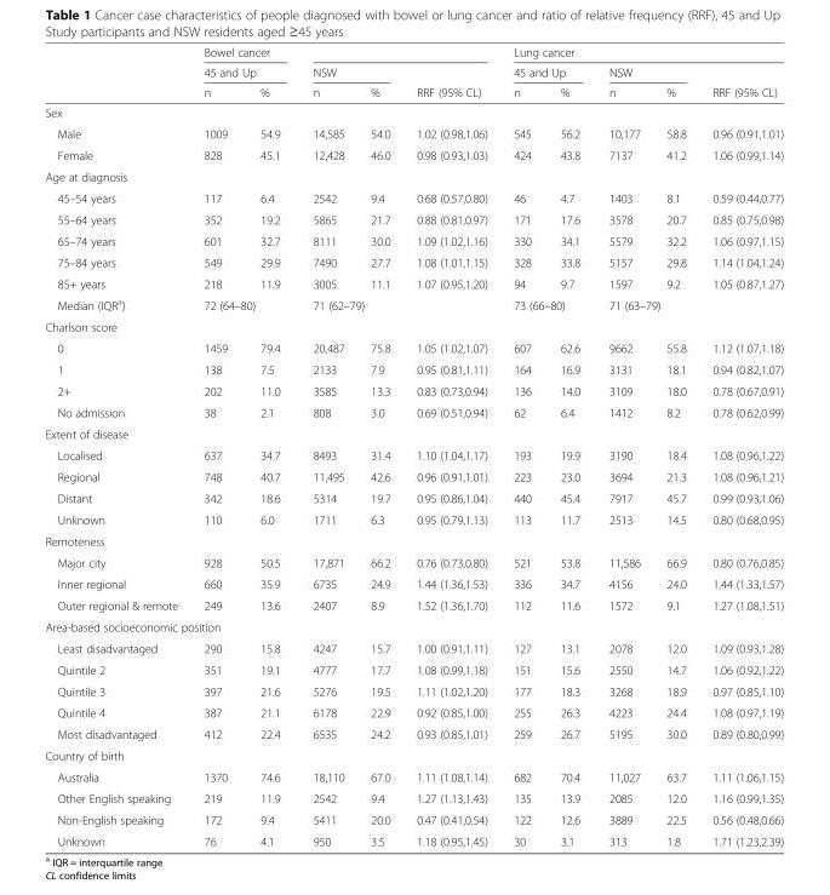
<table><thead><tr><td rowspan="3"></td><td rowspan="2" colspan="2">Bowel cancer 45 and Up</td><td></td><td></td><td rowspan="3">RRF (95% CL)</td><td colspan="5">Lung cancer</td></tr><tr><td colspan="2">NSW</td><td colspan="2">45 and Up</td><td colspan="2">NSW</td><td rowspan="2">RRF (95% CL)</td></tr><tr><td>n</td><td>%</td><td>n</td><td>%</td><td>n</td><td>%</td><td>n</td><td>%</td></tr></thead><tbody><tr><td colspan="11">Sex</td></tr><tr><td>Male</td><td>1009</td><td>54.9</td><td>14,585</td><td>54.0</td><td>1.02 (0.98,1.06)</td><td>545</td><td>56.2</td><td>10,177</td><td>58.8</td><td>0.96 (0.91,1.01)</td></tr><tr><td>Female</td><td>828</td><td>45.1</td><td>12,428</td><td>46.0</td><td>0.98 (0.93,1.03)</td><td>424</td><td>43.8</td><td>7137</td><td>41.2</td><td>1.06 (0.99,1.14)</td></tr><tr><td colspan="11">Age at diagnosis</td></tr><tr><td>45–54 years</td><td>117</td><td>6.4</td><td>2542</td><td>9.4</td><td>0.68 (0.57,0.80)</td><td>46</td><td>4.7</td><td>1403</td><td>8.1</td><td>0.59 (0.44,0.77)</td></tr><tr><td>55–64 years</td><td>352</td><td>19.2</td><td>5865</td><td>21.7</td><td>0.88 (0.81,0.97)</td><td>171</td><td>17.6</td><td>3578</td><td>20.7</td><td>0.85 (0.75,0.98)</td></tr><tr><td>65–74 years</td><td>601</td><td>32.7</td><td>8111</td><td>30.0</td><td>1.09 (1.02,1.16)</td><td>330</td><td>34.1</td><td>5579</td><td>32.2</td><td>1.06 (0.97,1.15)</td></tr><tr><td>75–84 years</td><td>549</td><td>29.9</td><td>7490</td><td>27.7</td><td>1.08 (1.01,1.15)</td><td>328</td><td>33.8</td><td>5157</td><td>29.8</td><td>1.14 (1.04,1.24)</td></tr><tr><td>85+ years</td><td>218</td><td>11.9</td><td>3005</td><td>11.1</td><td>1.07 (0.95,1.20)</td><td>94</td><td>9.7</td><td>1597</td><td>9.2</td><td>1.05 (0.87,1.27)</td></tr><tr><td>Median (IQR<sup>a</sup>)</td><td colspan="2">72 (64–80)</td><td colspan="2">71 (62–79)</td><td></td><td colspan="2">73 (66–80)</td><td colspan="2">71 (63–79)</td><td></td></tr><tr><td colspan="11">Charlson score</td></tr><tr><td>0</td><td>1459</td><td>79.4</td><td>20,487</td><td>75.8</td><td>1.05 (1.02,1.07)</td><td>607</td><td>62.6</td><td>9662</td><td>55.8</td><td>1.12 (1.07,1.18)</td></tr><tr><td>1</td><td>138</td><td>7.5</td><td>2133</td><td>7.9</td><td>0.95 (0.81,1.11)</td><td>164</td><td>16.9</td><td>3131</td><td>18.1</td><td>0.94 (0.82,1.07)</td></tr><tr><td>2+</td><td>202</td><td>11.0</td><td>3585</td><td>13.3</td><td>0.83 (0.73,0.94)</td><td>136</td><td>14.0</td><td>3109</td><td>18.0</td><td>0.78 (0.67,0.91)</td></tr><tr><td>No admission</td><td>38</td><td>2.1</td><td>808</td><td>3.0</td><td>0.69 (0.51,0.94)</td><td>62</td><td>6.4</td><td>1412</td><td>8.2</td><td>0.78 (0.62,0.99)</td></tr><tr><td colspan="11">Extent of disease</td></tr><tr><td>Localised</td><td>637</td><td>34.7</td><td>8493</td><td>31.4</td><td>1.10 (1.04,1.17)</td><td>193</td><td>19.9</td><td>3190</td><td>18.4</td><td>1.08 (0.96,1.22)</td></tr><tr><td>Regional</td><td>748</td><td>40.7</td><td>11,495</td><td>42.6</td><td>0.96 (0.91,1.01)</td><td>223</td><td>23.0</td><td>3694</td><td>21.3</td><td>1.08 (0.96,1.21)</td></tr><tr><td>Distant</td><td>342</td><td>18.6</td><td>5314</td><td>19.7</td><td>0.95 (0.86,1.04)</td><td>440</td><td>45.4</td><td>7917</td><td>45.7</td><td>0.99 (0.93,1.06)</td></tr><tr><td>Unknown</td><td>110</td><td>6.0</td><td>1711</td><td>6.3</td><td>0.95 (0.79,1.13)</td><td>113</td><td>11.7</td><td>2513</td><td>14.5</td><td>0.80 (0.68,0.95)</td></tr><tr><td colspan="11">Remoteness</td></tr><tr><td>Major city</td><td>928</td><td>50.5</td><td>17,871</td><td>66.2</td><td>0.76 (0.73,0.80)</td><td>521</td><td>53.8</td><td>11,586</td><td>66.9</td><td>0.80 (0.76,0.85)</td></tr><tr><td>Inner regional</td><td>660</td><td>35.9</td><td>6735</td><td>24.9</td><td>1.44 (1.36,1.53)</td><td>336</td><td>34.7</td><td>4156</td><td>24.0</td><td>1.44 (1.33,1.57)</td></tr><tr><td>Outer regional &amp; remote</td><td>249</td><td>13.6</td><td>2407</td><td>8.9</td><td>1.52 (1.36,1.70)</td><td>112</td><td>11.6</td><td>1572</td><td>9.1</td><td>1.27 (1.08,1.51)</td></tr><tr><td colspan="11">Area-based socioeconomic position</td></tr><tr><td>Least disadvantaged</td><td>290</td><td>15.8</td><td>4247</td><td>15.7</td><td>1.00 (0.91,1.11)</td><td>127</td><td>13.1</td><td>2078</td><td>12.0</td><td>1.09 (0.93,1.28)</td></tr><tr><td>Quintile 2</td><td>351</td><td>19.1</td><td>4777</td><td>17.7</td><td>1.08 (0.99,1.18)</td><td>151</td><td>15.6</td><td>2550</td><td>14.7</td><td>1.06 (0.92,1.22)</td></tr><tr><td>Quintile 3</td><td>397</td><td>21.6</td><td>5276</td><td>19.5</td><td>1.11 (1.02,1.20)</td><td>177</td><td>18.3</td><td>3268</td><td>18.9</td><td>0.97 (0.85,1.10)</td></tr><tr><td>Quintile 4</td><td>387</td><td>21.1</td><td>6178</td><td>22.9</td><td>0.92 (0.85,1.00)</td><td>255</td><td>26.3</td><td>4223</td><td>24.4</td><td>1.08 (0.97,1.19)</td></tr><tr><td>Most disadvantaged</td><td>412</td><td>22.4</td><td>6535</td><td>24.2</td><td>0.93 (0.85,1.01)</td><td>259</td><td>26.7</td><td>5195</td><td>30.0</td><td>0.89 (0.80,0.99)</td></tr><tr><td colspan="11">Country of birth</td></tr><tr><td>Australia</td><td>1370</td><td>74.6</td><td>18,110</td><td>67.0</td><td>1.11 (1.08,1.14)</td><td>682</td><td>70.4</td><td>11,027</td><td>63.7</td><td>1.11 (1.06,1.15)</td></tr><tr><td>Other English speaking</td><td>219</td><td>11.9</td><td>2542</td><td>9.4</td><td>1.27 (1.13,1.43)</td><td>135</td><td>13.9</td><td>2085</td><td>12.0</td><td>1.16 (0.99,1.35)</td></tr><tr><td>Non-English speaking</td><td>172</td><td>9.4</td><td>5411</td><td>20.0</td><td>0.47 (0.41,0.54)</td><td>122</td><td>12.6</td><td>3889</td><td>22.5</td><td>0.56 (0.48,0.66)</td></tr><tr><td>Unknown</td><td>76</td><td>4.1</td><td>950</td><td>3.5</td><td>1.18 (0.95,1.45)</td><td>30</td><td>3.1</td><td>313</td><td>1.8</td><td>1.71 (1.23,2.39)</td></tr></tbody></table>